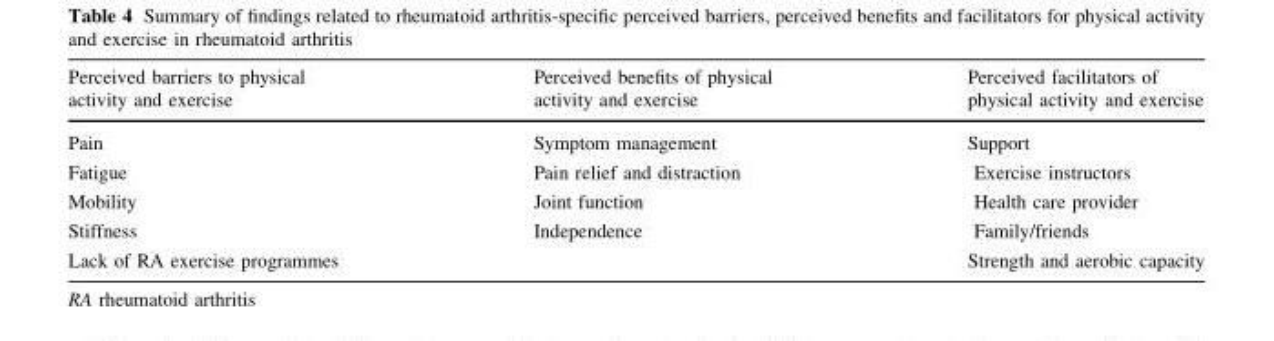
<table><thead><tr><td>Perceived barriers to physical activity and exercise</td><td>Perceived benefits of physical activity and exercise</td><td>Perceived facilitators of physical activity and exercise</td></tr></thead><tbody><tr><td>Pain</td><td>Symptom management</td><td>Support</td></tr><tr><td>Fatigue</td><td>Pain relief and distraction</td><td>Exercise instructors</td></tr><tr><td>Mobility</td><td>Joint function</td><td>Health care provider</td></tr><tr><td>Stiffness</td><td>Independence</td><td>Family/friends</td></tr><tr><td>Lack of RA exercise programmes</td><td></td><td>Strength and aerobic capacity</td></tr></tbody></table>